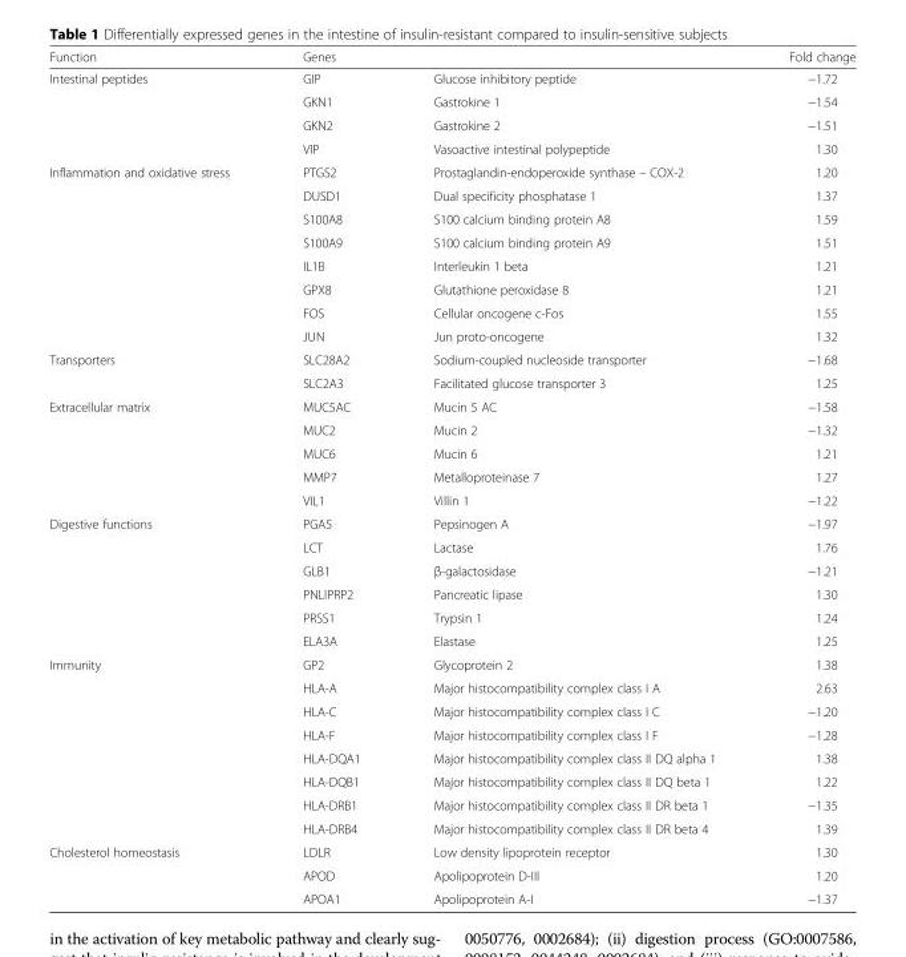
<table><thead><tr><td>Function</td><td>Genes</td><td></td><td>Fold change</td></tr></thead><tbody><tr><td rowspan="4">Intestinal peptides</td><td>GIP</td><td>Glucose inhibitory peptide</td><td>−1.72</td></tr><tr><td>GKN1</td><td>Gastrokine 1</td><td>−1.54</td></tr><tr><td>GKN2</td><td>Gastrokine 2</td><td>−1.51</td></tr><tr><td>VIP</td><td>Vasoactive intestinal polypeptide</td><td>1.30</td></tr><tr><td rowspan="8">Inflammation and oxidative stress</td><td>PTGS2</td><td>Prostaglandin-endoperoxide synthase – COX-2</td><td>1.20</td></tr><tr><td>DUSD1</td><td>Dual specificity phosphatase 1</td><td>1.37</td></tr><tr><td>S100A8</td><td>S100 calcium binding protein A8</td><td>1.59</td></tr><tr><td>S100A9</td><td>S100 calcium binding protein A9</td><td>1.51</td></tr><tr><td>IL1B</td><td>Interleukin 1 beta</td><td>1.21</td></tr><tr><td>GPX8</td><td>Glutathione peroxidase 8</td><td>1.21</td></tr><tr><td>FOS</td><td>Cellular oncogene c-Fos</td><td>1.55</td></tr><tr><td>JUN</td><td>Jun proto-oncogene</td><td>1.32</td></tr><tr><td rowspan="2">Transporters</td><td>SLC28A2</td><td>Sodium-coupled nucleoside transporter</td><td>−1.68</td></tr><tr><td>SLC2A3</td><td>Facilitated glucose transporter 3</td><td>1.25</td></tr><tr><td rowspan="5">Extracellular matrix</td><td>MUC5AC</td><td>Mucin 5 AC</td><td>−1.58</td></tr><tr><td>MUC2</td><td>Mucin 2</td><td>−1.32</td></tr><tr><td>MUC6</td><td>Mucin 6</td><td>1.21</td></tr><tr><td>MMP7</td><td>Metalloproteinase 7</td><td>1.27</td></tr><tr><td>VIL1</td><td>Villin 1</td><td>−1.22</td></tr><tr><td rowspan="6">Digestive functions</td><td>PGA5</td><td>Pepsinogen A</td><td>−1.97</td></tr><tr><td>LCT</td><td>Lactase</td><td>1.76</td></tr><tr><td>GLB1</td><td>β-galactosidase</td><td>−1.21</td></tr><tr><td>PNLIPRP2</td><td>Pancreatic lipase</td><td>1.30</td></tr><tr><td>PRSS1</td><td>Trypsin 1</td><td>1.24</td></tr><tr><td>ELA3A</td><td>Elastase</td><td>1.25</td></tr><tr><td rowspan="8">Immunity</td><td>GP2</td><td>Glycoprotein 2</td><td>1.38</td></tr><tr><td>HLA-A</td><td>Major histocompatibility complex class I A</td><td>2.63</td></tr><tr><td>HLA-C</td><td>Major histocompatibility complex class I C</td><td>−1.20</td></tr><tr><td>HLA-F</td><td>Major histocompatibility complex class I F</td><td>−1.28</td></tr><tr><td>HLA-DQA1</td><td>Major histocompatibility complex class II DQ alpha 1</td><td>1.38</td></tr><tr><td>HLA-DQB1</td><td>Major histocompatibility complex class II DQ beta 1</td><td>1.22</td></tr><tr><td>HLA-DRB1</td><td>Major histocompatibility complex class II DR beta 1</td><td>−1.35</td></tr><tr><td>HLA-DRB4</td><td>Major histocompatibility complex class II DR beta 4</td><td>1.39</td></tr><tr><td rowspan="3">Cholesterol homeostasis</td><td>LDLR</td><td>Low density lipoprotein receptor</td><td>1.30</td></tr><tr><td>APOD</td><td>Apolipoprotein D-III</td><td>1.20</td></tr><tr><td>APOA1</td><td>Apolipoprotein A-I</td><td>−1.37</td></tr></tbody></table>